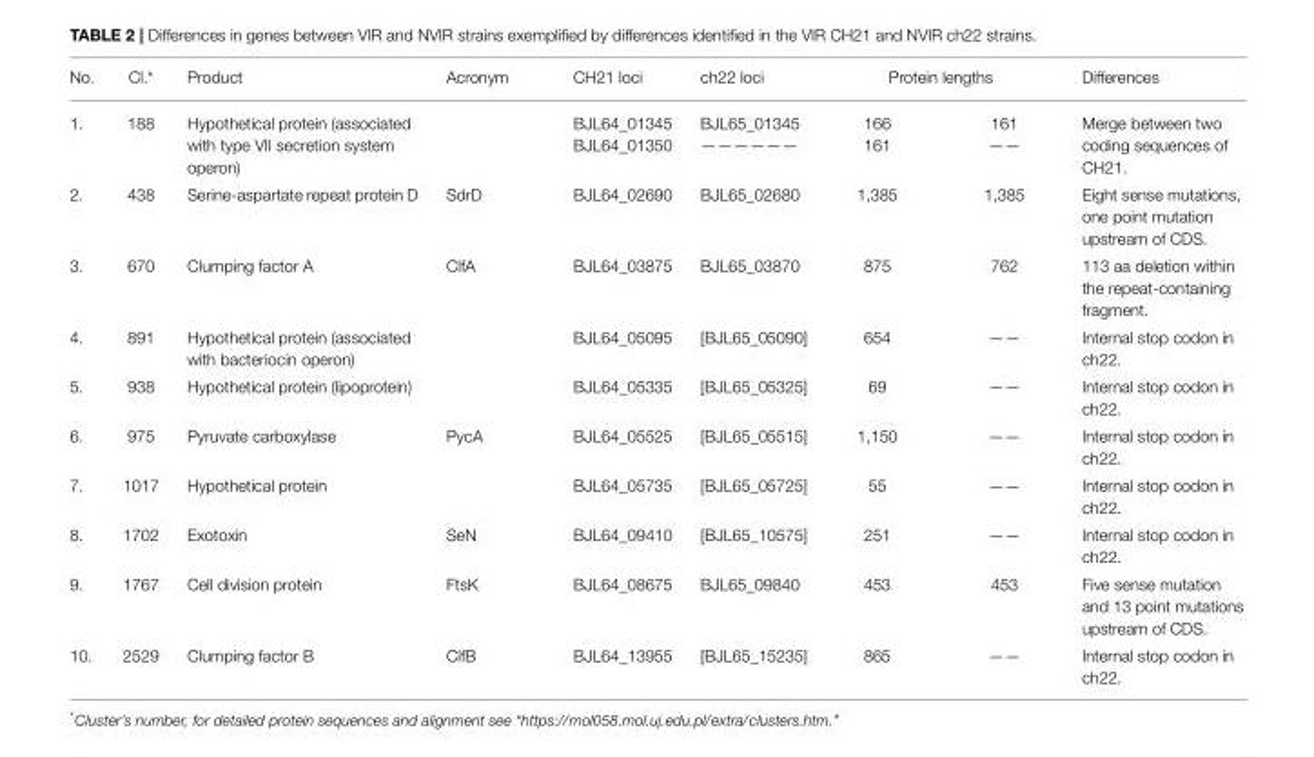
<table><thead><tr><td rowspan="2">No. 1.</td><td rowspan="2">Cl.* 188</td><td rowspan="2">Product Hypothetical protein (associated with type VII secretion system operon)</td><td rowspan="2">Acronym</td><td rowspan="2">CH21 loci BJL64_01345 BJL64_01350</td><td rowspan="2">ch22 loci BJL65_01345 ——————</td><td colspan="2">Protein lengths</td><td rowspan="2">Differences Merge between two coding sequences of CH21.</td></tr><tr><td>166 161</td><td>161 ——</td></tr></thead><tbody><tr><td>2.</td><td>438</td><td>Serine-aspartate repeat protein D</td><td>SdrD</td><td>BJL64_02690</td><td>BJL65_02680</td><td>1,385</td><td>1,385</td><td>Eight sense mutations, one point mutation upstream of CDS.</td></tr><tr><td>3.</td><td>670</td><td>Clumping factor A</td><td>ClfA</td><td>BJL64_03875</td><td>BJL65_03870</td><td>875</td><td>762</td><td>113 aa deletion within the repeat-containing fragment.</td></tr><tr><td>4.</td><td>891</td><td>Hypothetical protein (associated with bacteriocin operon)</td><td></td><td>BJL64_05095</td><td>[BJL65_05090]</td><td>654</td><td>——</td><td>Internal stop codon in ch22.</td></tr><tr><td>5.</td><td>938</td><td>Hypothetical protein (lipoprotein)</td><td></td><td>BJL64_05335</td><td>[BJL65_05325]</td><td>69</td><td>——</td><td>Internal stop codon in ch22.</td></tr><tr><td>6.</td><td>975</td><td>Pyruvate carboxylase</td><td>PycA</td><td>BJL64_05525</td><td>[BJL65_05515]</td><td>1,150</td><td>——</td><td>Internal stop codon in ch22.</td></tr><tr><td>7.</td><td>1017</td><td>Hypothetical protein</td><td></td><td>BJL64_05735</td><td>[BJL65_05725]</td><td>55</td><td>——</td><td>Internal stop codon in ch22.</td></tr><tr><td>8.</td><td>1702</td><td>Exotoxin</td><td>SeN</td><td>BJL64_09410</td><td>[BJL65_10575]</td><td>251</td><td>——</td><td>Internal stop codon in ch22.</td></tr><tr><td>9.</td><td>1767</td><td>Cell division protein</td><td>FtsK</td><td>BJL64_08675</td><td>BJL65_09840</td><td>453</td><td>453</td><td>Five sense mutation and 13 point mutations upstream of CDS.</td></tr><tr><td>10.</td><td>2529</td><td>Clumping factor B</td><td>ClfB</td><td>BJL64_13955</td><td>[BJL65_15235]</td><td>865</td><td>——</td><td>Internal stop codon in ch22.</td></tr></tbody></table>